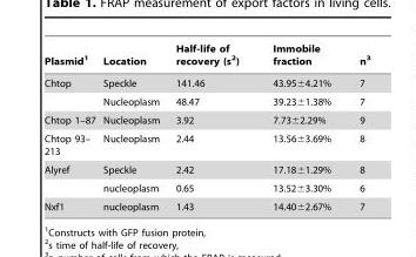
<table><thead><tr><td>Plasmid<sup>1</sup></td><td>Location</td><td>Half-life of recovery (s<sup>2</sup>)</td><td>Immobile fraction</td><td>n<sup>3</sup></td></tr></thead><tbody><tr><td rowspan="2">Chtop</td><td>Speckle</td><td>141.46</td><td>43.95±4.21%</td><td>7</td></tr><tr><td>Nucleoplasm</td><td>48.47</td><td>39.23±1.38%</td><td>7</td></tr><tr><td>Chtop 1–87</td><td>Nucleoplasm</td><td>3.92</td><td>7.73±2.29%</td><td>9</td></tr><tr><td>Chtop 93– 213</td><td>Nucleoplasm</td><td>2.44</td><td>13.56±3.69%</td><td>8</td></tr><tr><td rowspan="2">Alyref</td><td>Speckle</td><td>2.42</td><td>17.18±1.29%</td><td>8</td></tr><tr><td>nucleoplasm</td><td>0.65</td><td>13.52±3.30%</td><td>6</td></tr><tr><td>Nxf1</td><td>nucleoplasm</td><td>1.43</td><td>14.40±2.67%</td><td>7</td></tr></tbody></table>